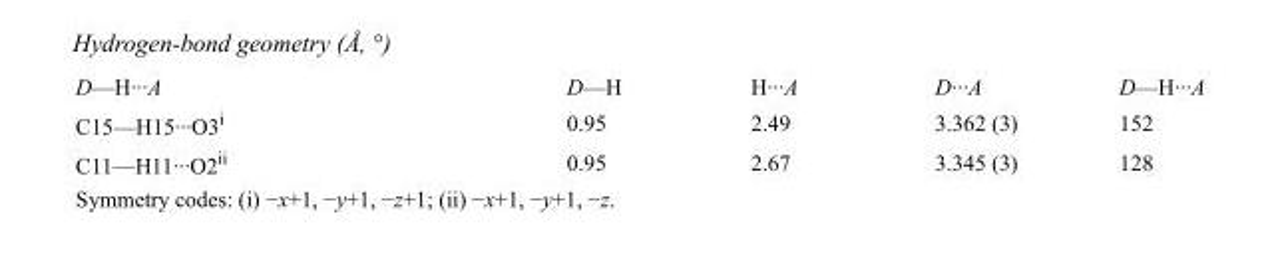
<table><tbody><tr><td>D—H···A</td><td>D—H</td><td>H···A</td><td>D···A</td><td>D—H···A</td></tr><tr><td>C15—H15···O3<sup>i</sup></td><td>0.95</td><td>2.49</td><td>3.362 (3)</td><td>152</td></tr><tr><td>C11—H11···O2<sup>ii</sup></td><td>0.95</td><td>2.67</td><td>3.345 (3)</td><td>128</td></tr></tbody></table>